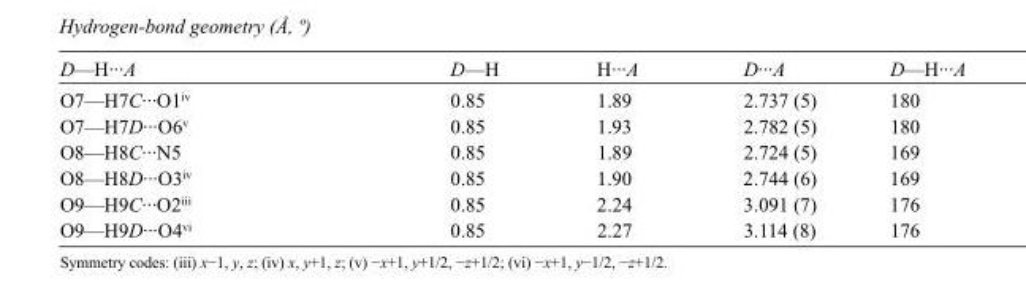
<table><tbody><tr><td>D—H···A</td><td>D—H</td><td>H···A</td><td>D···A</td><td>D—H···A</td></tr><tr><td>O7—H7C···O1<sup>iv</sup></td><td>0.85</td><td>1.89</td><td>2.737 (5)</td><td>180</td></tr><tr><td>O7—H7D···O6<sup>v</sup></td><td>0.85</td><td>1.93</td><td>2.782 (5)</td><td>180</td></tr><tr><td>O8—H8C···N5</td><td>0.85</td><td>1.89</td><td>2.724 (5)</td><td>169</td></tr><tr><td>O8—H8D···O3<sup>iv</sup></td><td>0.85</td><td>1.90</td><td>2.744 (6)</td><td>169</td></tr><tr><td>O9—H9C···O2<sup>iii</sup></td><td>0.85</td><td>2.24</td><td>3.091 (7)</td><td>176</td></tr><tr><td>O9—H9D···O4<sup>vi</sup></td><td>0.85</td><td>2.27</td><td>3.114 (8)</td><td>176</td></tr></tbody></table>